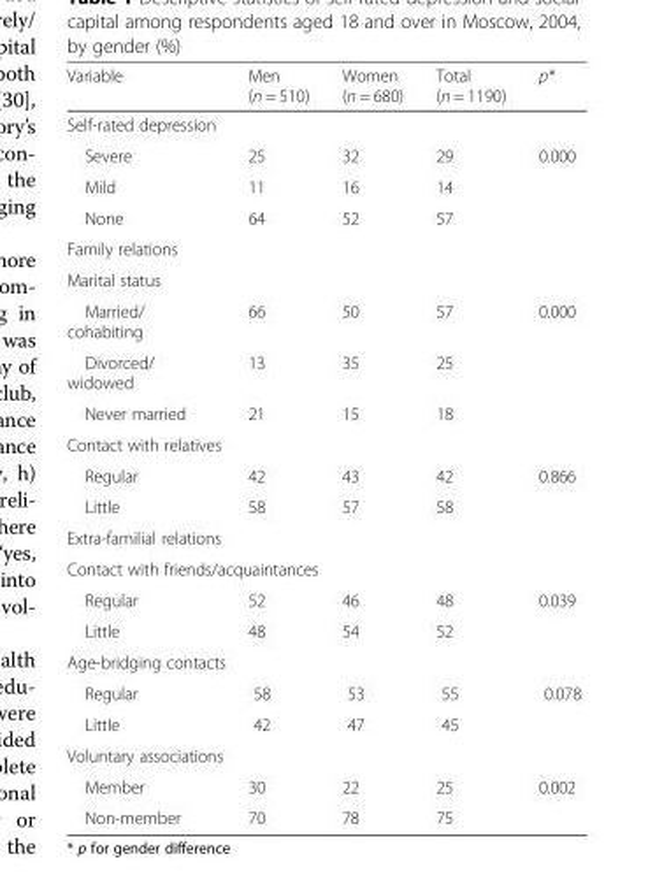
<table><thead><tr><td>Variable</td><td>Men (n = 510)</td><td>Women (n = 680)</td><td>Total (n = 1190)</td><td>p*</td></tr></thead><tbody><tr><td colspan="5">Self-rated depression</td></tr><tr><td>Severe</td><td>25</td><td>32</td><td>29</td><td>0.000</td></tr><tr><td>Mild</td><td>11</td><td>16</td><td>14</td><td></td></tr><tr><td>None</td><td>64</td><td>52</td><td>57</td><td></td></tr><tr><td colspan="5">Family relations</td></tr><tr><td colspan="5">Marital status</td></tr><tr><td>Married/ cohabiting</td><td>66</td><td>50</td><td>57</td><td>0.000</td></tr><tr><td>Divorced/ widowed</td><td>13</td><td>35</td><td>25</td><td></td></tr><tr><td>Never married</td><td>21</td><td>15</td><td>18</td><td></td></tr><tr><td colspan="5">Contact with relatives</td></tr><tr><td>Regular</td><td>42</td><td>43</td><td>42</td><td>0.866</td></tr><tr><td>Little</td><td>58</td><td>57</td><td>58</td><td></td></tr><tr><td colspan="5">Extra-familial relations</td></tr><tr><td colspan="5">Contact with friends/acquaintances</td></tr><tr><td>Regular</td><td>52</td><td>46</td><td>48</td><td>0.039</td></tr><tr><td>Little</td><td>48</td><td>54</td><td>52</td><td></td></tr><tr><td colspan="5">Age-bridging contacts</td></tr><tr><td>Regular</td><td>58</td><td>53</td><td>55</td><td>0.078</td></tr><tr><td>Little</td><td>42</td><td>47</td><td>45</td><td></td></tr><tr><td colspan="5">Voluntary associations</td></tr><tr><td>Member</td><td>30</td><td>22</td><td>25</td><td>0.002</td></tr><tr><td>Non-member</td><td>70</td><td>78</td><td>75</td><td></td></tr></tbody></table>